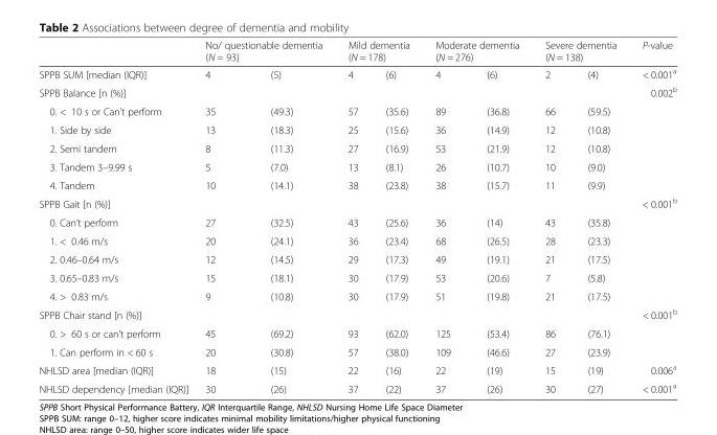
<table><thead><tr><td rowspan="2">SPPB SUM [median (IQR)]</td><td colspan="2">No/ questionable dementia (N = 93)</td><td colspan="2">Mild dementia (N = 178)</td><td colspan="2">Moderate dementia (N = 276)</td><td colspan="2">Severe dementia (N = 138)</td><td rowspan="2">P-value &lt; 0.001<sup>a</sup></td></tr><tr><td>4</td><td>(5)</td><td>4</td><td>(6)</td><td>4</td><td>(6)</td><td>2</td><td>(4)</td></tr></thead><tbody><tr><td colspan="9">SPPB Balance [n (%)]</td><td rowspan="6">0.002<sup>b</sup></td></tr><tr><td>0. &lt; 10 s or Can’t perform</td><td>35</td><td>(49.3)</td><td>57</td><td>(35.6)</td><td>89</td><td>(36.8)</td><td>66</td><td>(59.5)</td></tr><tr><td>1. Side by side</td><td>13</td><td>(18.3)</td><td>25</td><td>(15.6)</td><td>36</td><td>(14.9)</td><td>12</td><td>(10.8)</td></tr><tr><td>2. Semi tandem</td><td>8</td><td>(11.3)</td><td>27</td><td>(16.9)</td><td>53</td><td>(21.9)</td><td>12</td><td>(10.8)</td></tr><tr><td>3. Tandem 3–9.99 s</td><td>5</td><td>(7.0)</td><td>13</td><td>(8.1)</td><td>26</td><td>(10.7)</td><td>10</td><td>(9.0)</td></tr><tr><td>4. Tandem</td><td>10</td><td>(14.1)</td><td>38</td><td>(23.8)</td><td>38</td><td>(15.7)</td><td>11</td><td>(9.9)</td></tr><tr><td colspan="9">SPPB Gait [n (%)]</td><td rowspan="6">&lt; 0.001<sup>b</sup></td></tr><tr><td>0. Can’t perform</td><td>27</td><td>(32.5)</td><td>43</td><td>(25.6)</td><td>36</td><td>(14)</td><td>43</td><td>(35.8)</td></tr><tr><td>1. &lt; 0.46 m/s</td><td>20</td><td>(24.1)</td><td>36</td><td>(23.4)</td><td>68</td><td>(26.5)</td><td>28</td><td>(23.3)</td></tr><tr><td>2. 0.46–0.64 m/s</td><td>12</td><td>(14.5)</td><td>29</td><td>(17.3)</td><td>49</td><td>(19.1)</td><td>21</td><td>(17.5)</td></tr><tr><td>3. 0.65–0.83 m/s</td><td>15</td><td>(18.1)</td><td>30</td><td>(17.9)</td><td>53</td><td>(20.6)</td><td>7</td><td>(5.8)</td></tr><tr><td>4. &gt; 0.83 m/s</td><td>9</td><td>(10.8)</td><td>30</td><td>(17.9)</td><td>51</td><td>(19.8)</td><td>21</td><td>(17.5)</td></tr><tr><td colspan="9">SPPB Chair stand [n (%)]</td><td rowspan="3">&lt; 0.001<sup>b</sup></td></tr><tr><td>0. &gt; 60 s or can’t perform</td><td>45</td><td>(69.2)</td><td>93</td><td>(62.0)</td><td>125</td><td>(53.4)</td><td>86</td><td>(76.1)</td></tr><tr><td>1. Can perform in &lt; 60 s</td><td>20</td><td>(30.8)</td><td>57</td><td>(38.0)</td><td>109</td><td>(46.6)</td><td>27</td><td>(23.9)</td></tr><tr><td>NHLSD area [median (IQR)]</td><td>18</td><td>(15)</td><td>22</td><td>(16)</td><td>22</td><td>(19)</td><td>15</td><td>(19)</td><td>0.006<sup>a</sup></td></tr><tr><td>NHLSD dependency [median (IQR)]</td><td>30</td><td>(26)</td><td>37</td><td>(22)</td><td>37</td><td>(26)</td><td>30</td><td>(27)</td><td>&lt; 0.001<sup>a</sup></td></tr></tbody></table>